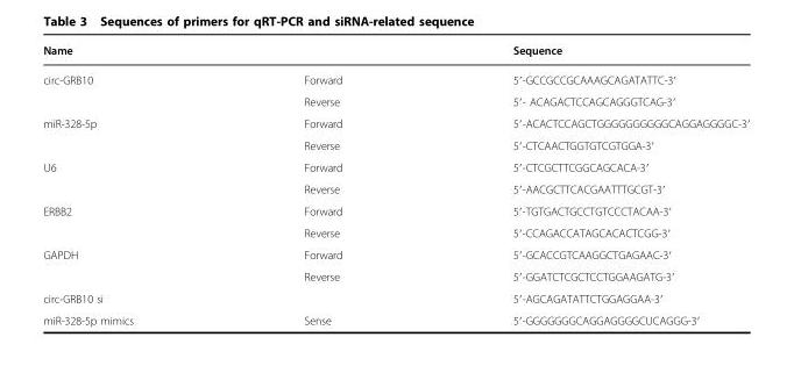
<table><thead><tr><td>Name</td><td></td><td>Sequence</td></tr></thead><tbody><tr><td rowspan="2">circ-GRB10</td><td>Forward</td><td>5′-GCCGCCGCAAAGCAGATATTC-3′</td></tr><tr><td>Reverse</td><td>5′- ACAGACTCCAGCAGGGTCAG-3′</td></tr><tr><td rowspan="2">miR-328-5p</td><td>Forward</td><td>5′-ACACTCCAGCTGGGGGGGGGGCAGGAGGGGC-3′</td></tr><tr><td>Reverse</td><td>5′-CTCAACTGGTGTCGTGGA-3′</td></tr><tr><td rowspan="2">U6</td><td>Forward</td><td>5′-CTCGCTTCGGCAGCACA-3′</td></tr><tr><td>Reverse</td><td>5′-AACGCTTCACGAATTTGCGT-3′</td></tr><tr><td rowspan="2">ERBB2</td><td>Forward</td><td>5′-TGTGACTGCCTGTCCCTACAA-3′</td></tr><tr><td>Reverse</td><td>5′-CCAGACCATAGCACACTCGG-3′</td></tr><tr><td rowspan="2">GAPDH</td><td>Forward</td><td>5′-GCACCGTCAAGGCTGAGAAC-3′</td></tr><tr><td>Reverse</td><td>5′-GGATCTCGCTCCTGGAAGATG-3′</td></tr><tr><td>circ-GRB10 si</td><td></td><td>5′-AGCAGATATTCTGGAGGAA-3′</td></tr><tr><td>miR-328-5p mimics</td><td>Sense</td><td>5′-GGGGGGGCAGGAGGGGCUCAGGG-3′</td></tr></tbody></table>